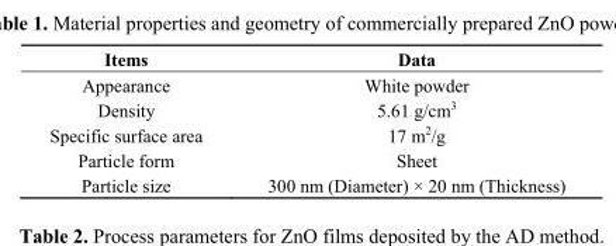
<table><thead><tr><td>Items</td><td>Data</td></tr></thead><tbody><tr><td>Appearance</td><td>White powder</td></tr><tr><td>Density</td><td>5.61 g/cm<sup>3</sup></td></tr><tr><td>Specific surface area</td><td>17 m<sup>2</sup>/g</td></tr><tr><td>Particle form</td><td>Sheet</td></tr><tr><td>Particle size</td><td>300 nm (Diameter) × 20 nm (Thickness)</td></tr></tbody></table>